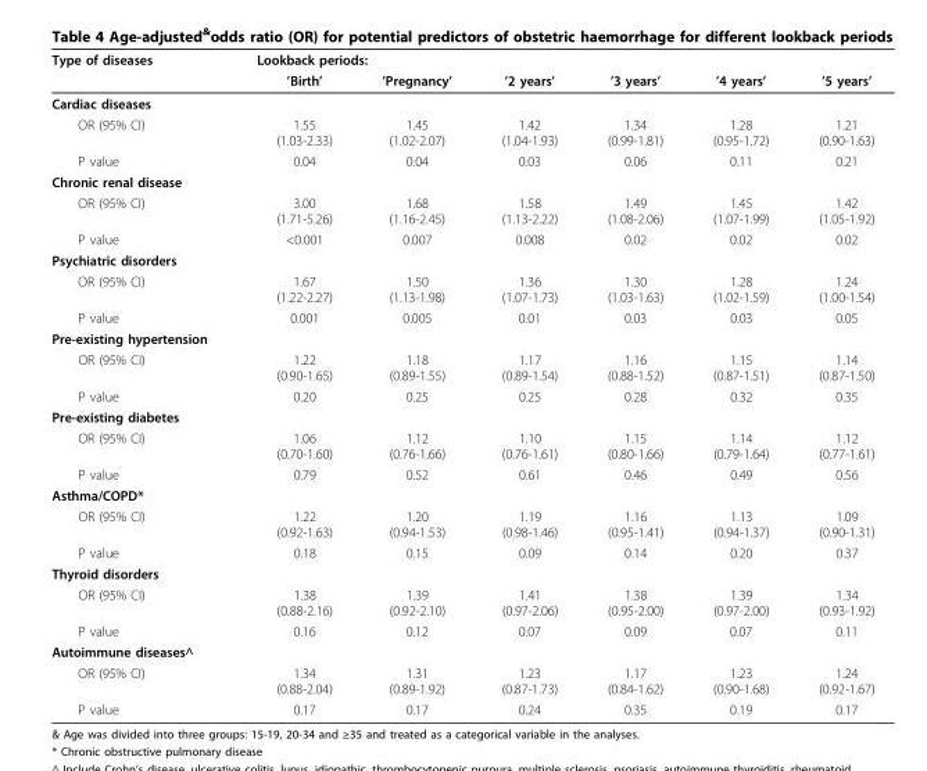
<table><thead><tr><td rowspan="2">Type of diseases</td><td colspan="2">Lookback periods:</td><td rowspan="2">’2 years’</td><td rowspan="2">’3 years’</td><td rowspan="2">’4 years’</td><td rowspan="2">’5 years’</td></tr><tr><td>’Birth’</td><td>’Pregnancy’</td></tr></thead><tbody><tr><td colspan="7">Cardiac diseases</td></tr><tr><td>OR (95% CI)</td><td>1.55 (1.03-2.33)</td><td>1.45 (1.02-2.07)</td><td>1.42 (1.04-1.93)</td><td>1.34 (0.99-1.81)</td><td>1.28 (0.95-1.72)</td><td>1.21 (0.90-1.63)</td></tr><tr><td>P value</td><td>0.04</td><td>0.04</td><td>0.03</td><td>0.06</td><td>0.11</td><td>0.21</td></tr><tr><td colspan="7">Chronic renal disease</td></tr><tr><td>OR (95% CI)</td><td>3.00 (1.71-5.26)</td><td>1.68 (1.16-2.45)</td><td>1.58 (1.13-2.22)</td><td>1.49 (1.08-2.06)</td><td>1.45 (1.07-1.99)</td><td>1.42 (1.05-1.92)</td></tr><tr><td>P value</td><td>&lt;0.001</td><td>0.007</td><td>0.008</td><td>0.02</td><td>0.02</td><td>0.02</td></tr><tr><td colspan="7">Psychiatric disorders</td></tr><tr><td>OR (95% CI)</td><td>1.67 (1.22-2.27)</td><td>1.50 (1.13-1.98)</td><td>1.36 (1.07-1.73)</td><td>1.30 (1.03-1.63)</td><td>1.28 (1.02-1.59)</td><td>1.24 (1.00-1.54)</td></tr><tr><td>P value</td><td>0.001</td><td>0.005</td><td>0.01</td><td>0.03</td><td>0.03</td><td>0.05</td></tr><tr><td colspan="7">Pre-existing hypertension</td></tr><tr><td>OR (95% CI)</td><td>1.22 (0.90-1.65)</td><td>1.18 (0.89-1.55)</td><td>1.17 (0.89-1.54)</td><td>1.16 (0.88-1.52)</td><td>1.15 (0.87-1.51)</td><td>1.14 (0.87-1.50)</td></tr><tr><td>P value</td><td>0.20</td><td>0.25</td><td>0.25</td><td>0.28</td><td>0.32</td><td>0.35</td></tr><tr><td colspan="7">Pre-existing diabetes</td></tr><tr><td>OR (95% CI)</td><td>1.06 (0.70-1.60)</td><td>1.12 (0.76-1.66)</td><td>1.10 (0.76-1.61)</td><td>1.15 (0.80-1.66)</td><td>1.14 (0.79-1.64)</td><td>1.12 (0.77-1.61)</td></tr><tr><td>P value</td><td>0.79</td><td>0.52</td><td>0.61</td><td>0.46</td><td>0.49</td><td>0.56</td></tr><tr><td colspan="7">Asthma/COPD*</td></tr><tr><td>OR (95% CI)</td><td>1.22 (0.92-1.63)</td><td>1.20 (0.94-1.53)</td><td>1.19 (0.98-1.46)</td><td>1.16 (0.95-1.41)</td><td>1.13 (0.94-1.37)</td><td>1.09 (0.90-1.31)</td></tr><tr><td>P value</td><td>0.18</td><td>0.15</td><td>0.09</td><td>0.14</td><td>0.20</td><td>0.37</td></tr><tr><td colspan="7">Thyroid disorders</td></tr><tr><td>OR (95% CI)</td><td>1.38 (0.88-2.16)</td><td>1.39 (0.92-2.10)</td><td>1.41 (0.97-2.06)</td><td>1.38 (0.95-2.00)</td><td>1.39 (0.97-2.00)</td><td>1.34 (0.93-1.92)</td></tr><tr><td>P value</td><td>0.16</td><td>0.12</td><td>0.07</td><td>0.09</td><td>0.07</td><td>0.11</td></tr><tr><td colspan="7">Autoimmune diseases^</td></tr><tr><td>OR (95% CI)</td><td>1.34 (0.88-2.04)</td><td>1.31 (0.89-1.92)</td><td>1.23 (0.87-1.73)</td><td>1.17 (0.84-1.62)</td><td>1.23 (0.90-1.68)</td><td>1.24 (0.92-1.67)</td></tr><tr><td>P value</td><td>0.17</td><td>0.17</td><td>0.24</td><td>0.35</td><td>0.19</td><td>0.17</td></tr></tbody></table>